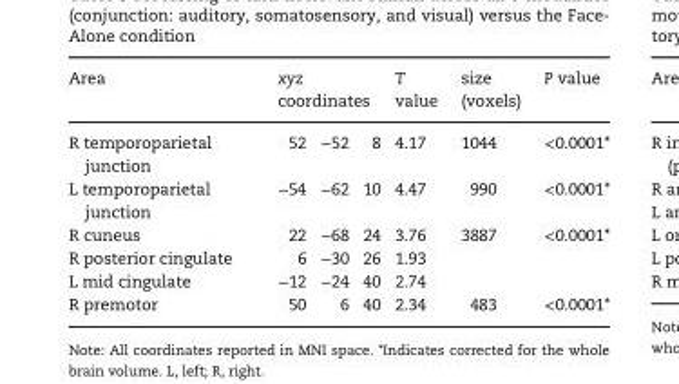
<table><thead><tr><td rowspan="2">Area R temporoparietal junction</td><td colspan="3">xyz coordinates</td><td rowspan="2">T value 4.17</td><td rowspan="2">size (voxels) 1044</td><td rowspan="2">P value &lt;0.0001*</td></tr><tr><td>52</td><td>−52</td><td>8</td></tr></thead><tbody><tr><td>L temporoparietal junction</td><td>−54</td><td>−62</td><td>10</td><td>4.47</td><td>990</td><td>&lt;0.0001*</td></tr><tr><td>R cuneus</td><td>22</td><td>−68</td><td>24</td><td>3.76</td><td>3887</td><td>&lt;0.0001*</td></tr><tr><td>R posterior cingulate</td><td>6</td><td>−30</td><td>26</td><td>1.93</td><td></td><td></td></tr><tr><td>L mid cingulate</td><td>−12</td><td>−24</td><td>40</td><td>2.74</td><td></td><td></td></tr><tr><td>R premotor</td><td>50</td><td>6</td><td>40</td><td>2.34</td><td>483</td><td>&lt;0.0001*</td></tr></tbody></table>